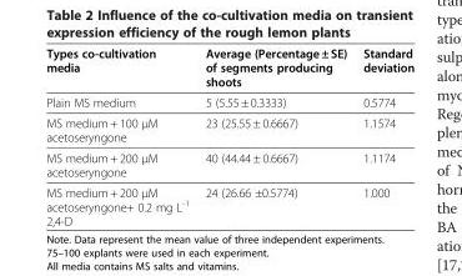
<table><thead><tr><td>Types co-cultivation media</td><td>Average (Percentage ± SE) of segments producing shoots</td><td>Standard deviation</td></tr></thead><tbody><tr><td>Plain MS medium</td><td>5 (5.55 ± 0.3333)</td><td>0.5774</td></tr><tr><td>MS medium + 100 μM acetoseryngone</td><td>23 (25.55 ± 0.6667)</td><td>1.1574</td></tr><tr><td>MS medium + 200 μM acetoseryngone</td><td>40 (44.44 ± 0.6667)</td><td>1.1174</td></tr><tr><td>MS medium + 200 μM acetoseryngone+ 0.2 mg L<sup>-1</sup> 2,4-D</td><td>24 (26.66 ±0.5774)</td><td>1.000</td></tr></tbody></table>